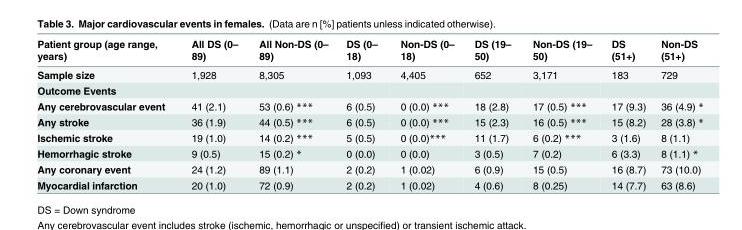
<table><thead><tr><td>Patient group (age range, years)</td><td>All DS (0– 89)</td><td>All Non-DS (0– 89)</td><td>DS (0– 18)</td><td>Non-DS (0– 18)</td><td>DS (19– 50)</td><td>Non-DS (19– 50)</td><td>DS (51+)</td><td>Non-DS (51+)</td></tr></thead><tbody><tr><td>Sample size</td><td>1,928</td><td>8,305</td><td>1,093</td><td>4,405</td><td>652</td><td>3,171</td><td>183</td><td>729</td></tr><tr><td colspan="9">Outcome Events</td></tr><tr><td>Any cerebrovascular event</td><td>41 (2.1)</td><td>53 (0.6) ***</td><td>6 (0.5)</td><td>0 (0.0) ***</td><td>18 (2.8)</td><td>17 (0.5) ***</td><td>17 (9.3)</td><td>36 (4.9) *</td></tr><tr><td>Any stroke</td><td>36 (1.9)</td><td>44 (0.5) ***</td><td>6 (0.5)</td><td>0 (0.0) ***</td><td>15 (2.3)</td><td>16 (0.5) ***</td><td>15 (8.2)</td><td>28 (3.8) *</td></tr><tr><td>Ischemic stroke</td><td>19 (1.0)</td><td>14 (0.2) ***</td><td>5 (0.5)</td><td>0 (0.0)***</td><td>11 (1.7)</td><td>6 (0.2) ***</td><td>3 (1.6)</td><td>8 (1.1)</td></tr><tr><td>Hemorrhagic stroke</td><td>9 (0.5)</td><td>15 (0.2) *</td><td>0 (0.0)</td><td>0 (0.0)</td><td>3 (0.5)</td><td>7 (0.2)</td><td>6 (3.3)</td><td>8 (1.1) *</td></tr><tr><td>Any coronary event</td><td>24 (1.2)</td><td>89 (1.1)</td><td>2 (0.2)</td><td>1 (0.02)</td><td>6 (0.9)</td><td>15 (0.5)</td><td>16 (8.7)</td><td>73 (10.0)</td></tr><tr><td>Myocardial infarction</td><td>20 (1.0)</td><td>72 (0.9)</td><td>2 (0.2)</td><td>1 (0.02)</td><td>4 (0.6)</td><td>8 (0.25)</td><td>14 (7.7)</td><td>63 (8.6)</td></tr></tbody></table>